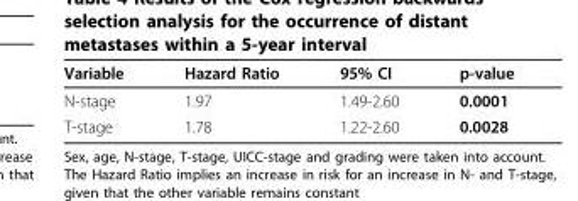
<table><thead><tr><td>Variable</td><td>Hazard Ratio</td><td>95% CI</td><td>p-value</td></tr></thead><tbody><tr><td>N-stage</td><td>1.97</td><td>1.49-2.60</td><td>0.0001</td></tr><tr><td>T-stage</td><td>1.78</td><td>1.22-2.60</td><td>0.0028</td></tr></tbody></table>